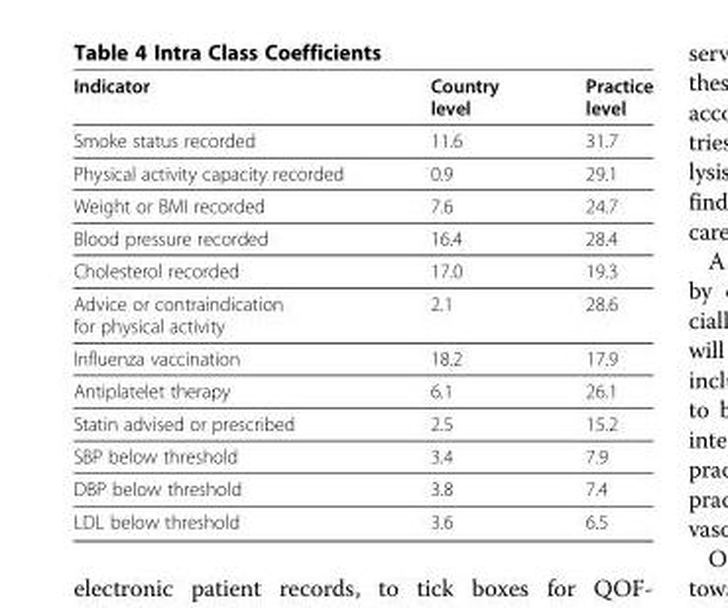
<table><thead><tr><td>Indicator</td><td>Country level</td><td>Practice level</td></tr></thead><tbody><tr><td>Smoke status recorded</td><td>11.6</td><td>31.7</td></tr><tr><td>Physical activity capacity recorded</td><td>0.9</td><td>29.1</td></tr><tr><td>Weight or BMI recorded</td><td>7.6</td><td>24.7</td></tr><tr><td>Blood pressure recorded</td><td>16.4</td><td>28.4</td></tr><tr><td>Cholesterol recorded</td><td>17.0</td><td>19.3</td></tr><tr><td>Advice or contraindication for physical activity</td><td>2.1</td><td>28.6</td></tr><tr><td>Influenza vaccination</td><td>18.2</td><td>17.9</td></tr><tr><td>Antiplatelet therapy</td><td>6.1</td><td>26.1</td></tr><tr><td>Statin advised or prescribed</td><td>2.5</td><td>15.2</td></tr><tr><td>SBP below threshold</td><td>3.4</td><td>7.9</td></tr><tr><td>DBP below threshold</td><td>3.8</td><td>7.4</td></tr><tr><td>LDL below threshold</td><td>3.6</td><td>6.5</td></tr></tbody></table>